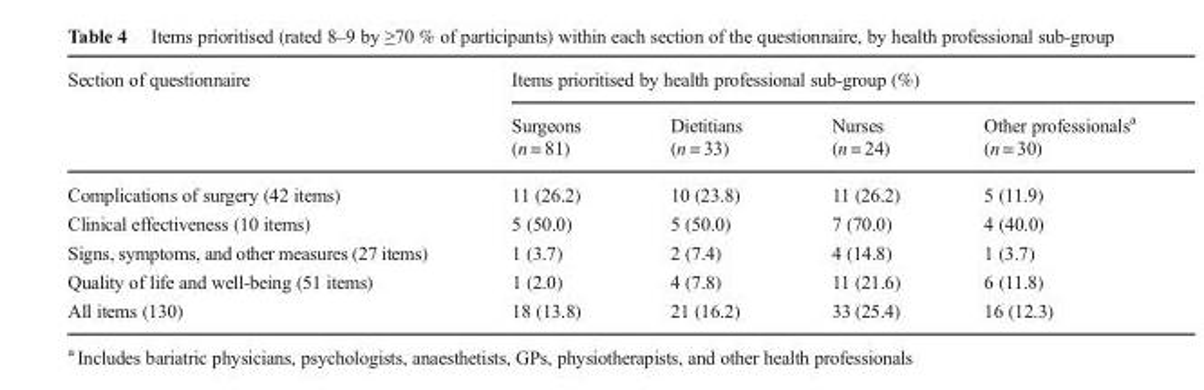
<table><thead><tr><td rowspan="2">Section of questionnaire</td><td colspan="4">Items prioritised by health professional sub-group (%)</td></tr><tr><td>Surgeons (n = 81)</td><td>Dietitians (n = 33)</td><td>Nurses (n = 24)</td><td>Other professionals<sup>a</sup> (n = 30)</td></tr></thead><tbody><tr><td>Complications of surgery (42 items)</td><td>11 (26.2)</td><td>10 (23.8)</td><td>11 (26.2)</td><td>5 (11.9)</td></tr><tr><td>Clinical effectiveness (10 items)</td><td>5 (50.0)</td><td>5 (50.0)</td><td>7 (70.0)</td><td>4 (40.0)</td></tr><tr><td>Signs, symptoms, and other measures (27 items)</td><td>1 (3.7)</td><td>2 (7.4)</td><td>4 (14.8)</td><td>1 (3.7)</td></tr><tr><td>Quality of life and well-being (51 items)</td><td>1 (2.0)</td><td>4 (7.8)</td><td>11 (21.6)</td><td>6 (11.8)</td></tr><tr><td>All items (130)</td><td>18 (13.8)</td><td>21 (16.2)</td><td>33 (25.4)</td><td>16 (12.3)</td></tr></tbody></table>